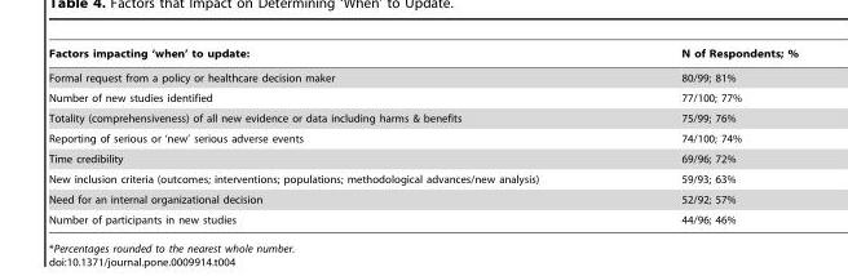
<table><thead><tr><td>Factors impacting ‘when’ to update:</td><td>N of Respondents; %</td></tr></thead><tbody><tr><td>Formal request from a policy or healthcare decision maker</td><td>80/99; 81%</td></tr><tr><td>Number of new studies identified</td><td>77/100; 77%</td></tr><tr><td>Totality (comprehensiveness) of all new evidence or data including harms &amp; benefits</td><td>75/99; 76%</td></tr><tr><td>Reporting of serious or ‘new’ serious adverse events</td><td>74/100; 74%</td></tr><tr><td>Time credibility</td><td>69/96; 72%</td></tr><tr><td>New inclusion criteria (outcomes; interventions; populations; methodological advances/new analysis)</td><td>59/93; 63%</td></tr><tr><td>Need for an internal organizational decision</td><td>52/92; 57%</td></tr><tr><td>Number of participants in new studies</td><td>44/96; 46%</td></tr></tbody></table>